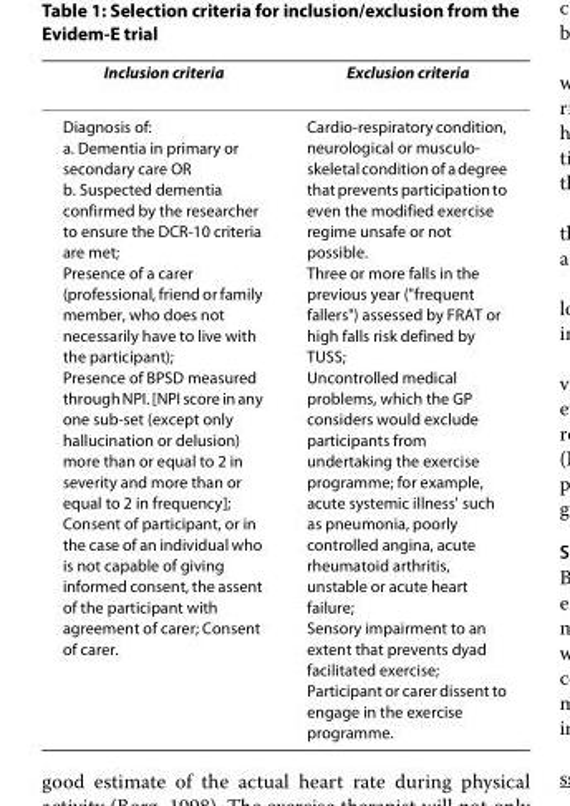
<table><thead><tr><td>Inclusion criteria</td><td>Exclusion criteria</td></tr></thead><tbody><tr><td>Diagnosis of: a. Dementia in primary or secondary care OR b. Suspected dementia confirmed by the researcher to ensure the DCR-10 criteria are met; Presence of a carer (professional, friend or family member, who does not necessarily have to live with the participant); Presence of BPSD measured through NPI. [NPI score in any one sub-set (except only hallucination or delusion) more than or equal to 2 in severity and more than or equal to 2 in frequency]; Consent of participant, or in the case of an individual who is not capable of giving informed consent, the assent of the participant with agreement of carer; Consent of carer.</td><td>Cardio-respiratory condition, neurological or musculo- skeletal condition of a degree that prevents participation to even the modified exercise regime unsafe or not possible. Three or more falls in the previous year (&quot;frequent fallers&quot;) assessed by FRAT or high falls risk defined by TUSS; Uncontrolled medical problems, which the GP considers would exclude participants from undertaking the exercise programme; for example, acute systemic illness&#x27; such as pneumonia, poorly controlled angina, acute rheumatoid arthritis, unstable or acute heart failure; Sensory impairment to an extent that prevents dyad facilitated exercise; Participant or carer dissent to engage in the exercise programme.</td></tr></tbody></table>